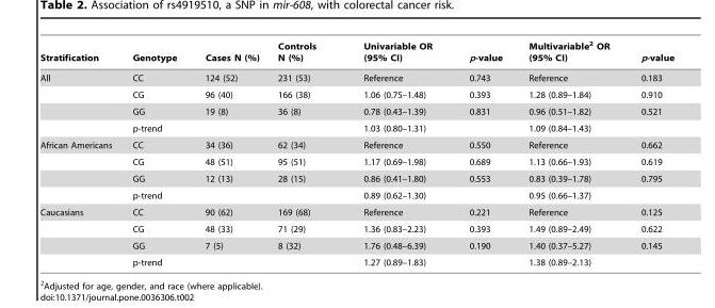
<table><thead><tr><td>Stratification</td><td>Genotype</td><td>Cases N (%)</td><td>Controls N (%)</td><td>Univariable OR (95% CI)</td><td>p-value</td><td>Multivariable<sup>2</sup> OR (95% CI)</td><td>p-value</td></tr></thead><tbody><tr><td rowspan="4">All</td><td>CC</td><td>124 (52)</td><td>231 (53)</td><td>Reference</td><td>0.743</td><td>Reference</td><td>0.183</td></tr><tr><td>CG</td><td>96 (40)</td><td>166 (38)</td><td>1.06 (0.75–1.48)</td><td>0.393</td><td>1.28 (0.89–1.84)</td><td>0.910</td></tr><tr><td>GG</td><td>19 (8)</td><td>36 (8)</td><td>0.78 (0.43–1.39)</td><td>0.831</td><td>0.96 (0.51–1.82)</td><td>0.521</td></tr><tr><td>p-trend</td><td></td><td></td><td>1.03 (0.80–1.31)</td><td></td><td>1.09 (0.84–1.43)</td><td></td></tr><tr><td rowspan="4">African Americans</td><td>CC</td><td>34 (36)</td><td>62 (34)</td><td>Reference</td><td>0.550</td><td>Reference</td><td>0.662</td></tr><tr><td>CG</td><td>48 (51)</td><td>95 (51)</td><td>1.17 (0.69–1.98)</td><td>0.689</td><td>1.13 (0.66–1.93)</td><td>0.619</td></tr><tr><td>GG</td><td>12 (13)</td><td>28 (15)</td><td>0.86 (0.41–1.80)</td><td>0.553</td><td>0.83 (0.39–1.78)</td><td>0.795</td></tr><tr><td>p-trend</td><td></td><td></td><td>0.89 (0.62–1.30)</td><td></td><td>0.95 (0.66–1.37)</td><td></td></tr><tr><td rowspan="4">Caucasians</td><td>CC</td><td>90 (62)</td><td>169 (68)</td><td>Reference</td><td>0.221</td><td>Reference</td><td>0.125</td></tr><tr><td>CG</td><td>48 (33)</td><td>71 (29)</td><td>1.36 (0.83–2.23)</td><td>0.393</td><td>1.49 (0.89–2.49)</td><td>0.622</td></tr><tr><td>GG</td><td>7 (5)</td><td>8 (32)</td><td>1.76 (0.48–6.39)</td><td>0.190</td><td>1.40 (0.37–5.27)</td><td>0.145</td></tr><tr><td>p-trend</td><td></td><td></td><td>1.27 (0.89–1.83)</td><td></td><td>1.38 (0.89–2.13)</td><td></td></tr></tbody></table>